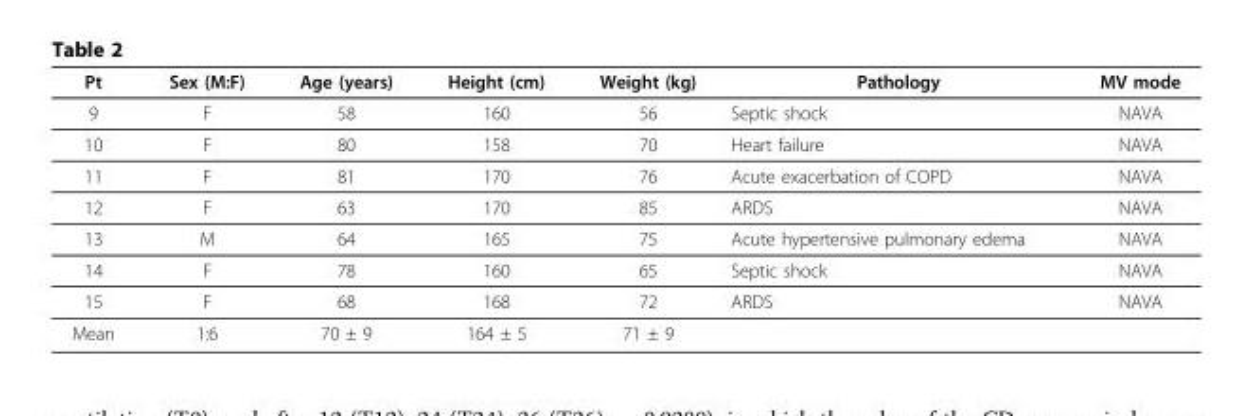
<table><thead><tr><td>Pt</td><td>Sex (M:F)</td><td>Age (years)</td><td>Height (cm)</td><td>Weight (kg)</td><td>Pathology</td><td>MV mode</td></tr></thead><tbody><tr><td>9</td><td>F</td><td>58</td><td>160</td><td>56</td><td>Septic shock</td><td>NAVA</td></tr><tr><td>10</td><td>F</td><td>80</td><td>158</td><td>70</td><td>Heart failure</td><td>NAVA</td></tr><tr><td>11</td><td>F</td><td>81</td><td>170</td><td>76</td><td>Acute exacerbation of COPD</td><td>NAVA</td></tr><tr><td>12</td><td>F</td><td>63</td><td>170</td><td>85</td><td>ARDS</td><td>NAVA</td></tr><tr><td>13</td><td>M</td><td>64</td><td>165</td><td>75</td><td>Acute hypertensive pulmonary edema</td><td>NAVA</td></tr><tr><td>14</td><td>F</td><td>78</td><td>160</td><td>65</td><td>Septic shock</td><td>NAVA</td></tr><tr><td>15</td><td>F</td><td>68</td><td>168</td><td>72</td><td>ARDS</td><td>NAVA</td></tr><tr><td>Mean</td><td>1:6</td><td>70 ± 9</td><td>164 ± 5</td><td>71 ± 9</td><td></td><td></td></tr></tbody></table>